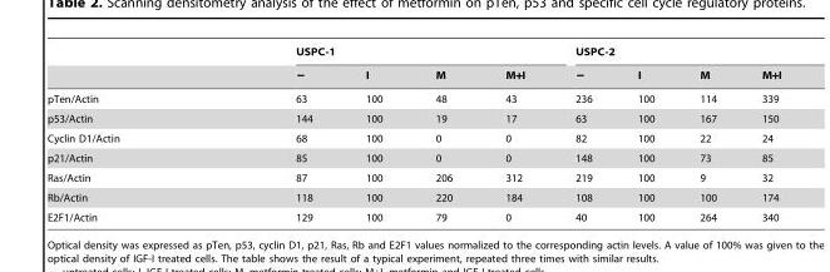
<table><thead><tr><td rowspan="2"></td><td colspan="4">USPC-1</td><td colspan="4">USPC-2</td></tr><tr><td>−</td><td>I</td><td>M</td><td>M+I</td><td>−</td><td>I</td><td>M</td><td>M+I</td></tr></thead><tbody><tr><td>pTen/Actin</td><td>63</td><td>100</td><td>48</td><td>43</td><td>236</td><td>100</td><td>114</td><td>339</td></tr><tr><td>p53/Actin</td><td>144</td><td>100</td><td>19</td><td>17</td><td>63</td><td>100</td><td>167</td><td>150</td></tr><tr><td>Cyclin D1/Actin</td><td>68</td><td>100</td><td>0</td><td>0</td><td>82</td><td>100</td><td>22</td><td>24</td></tr><tr><td>p21/Actin</td><td>85</td><td>100</td><td>0</td><td>0</td><td>148</td><td>100</td><td>73</td><td>85</td></tr><tr><td>Ras/Actin</td><td>87</td><td>100</td><td>206</td><td>312</td><td>219</td><td>100</td><td>9</td><td>32</td></tr><tr><td>Rb/Actin</td><td>118</td><td>100</td><td>220</td><td>184</td><td>108</td><td>100</td><td>100</td><td>174</td></tr><tr><td>E2F1/Actin</td><td>129</td><td>100</td><td>79</td><td>0</td><td>40</td><td>100</td><td>264</td><td>340</td></tr></tbody></table>